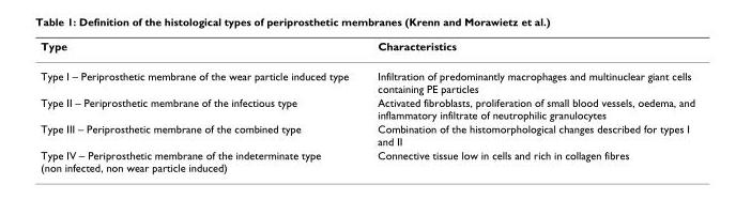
<table><thead><tr><td>Type</td><td>Characteristics</td></tr></thead><tbody><tr><td>Type I – Periprosthetic membrane of the wear particle induced type</td><td>Infiltration of predominantly macrophages and multinuclear giant cells containing PE particles</td></tr><tr><td>Type II – Periprosthetic membrane of the infectious type</td><td>Activated fibroblasts, proliferation of small blood vessels, oedema, and inflammatory infiltrate of neutrophilic granulocytes</td></tr><tr><td>Type III – Periprosthetic membrane of the combined type</td><td>Combination of the histomorphological changes described for types I and II</td></tr><tr><td>Type IV – Periprosthetic membrane of the indeterminate type (non infected, non wear particle induced)</td><td>Connective tissue low in cells and rich in collagen fibres</td></tr></tbody></table>